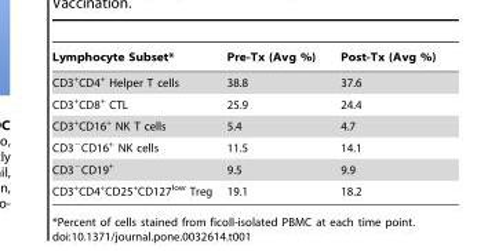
<table><thead><tr><td>Lymphocyte Subset*</td><td>Pre-Tx (Avg %)</td><td>Post-Tx (Avg %)</td></tr></thead><tbody><tr><td>CD3<sup>+</sup>CD4<sup>+</sup> Helper T cells</td><td>38.8</td><td>37.6</td></tr><tr><td>CD3<sup>+</sup>CD8<sup>+</sup> CTL</td><td>25.9</td><td>24.4</td></tr><tr><td>CD3<sup>+</sup>CD16<sup>+</sup> NK T cells</td><td>5.4</td><td>4.7</td></tr><tr><td>CD3<sup>−</sup>CD16<sup>+</sup> NK cells</td><td>11.5</td><td>14.1</td></tr><tr><td>CD3<sup>−</sup>CD19<sup>+</sup></td><td>9.5</td><td>9.9</td></tr><tr><td>CD3<sup>+</sup>CD4<sup>+</sup>CD25<sup>+</sup>CD127<sup>low</sup> Treg</td><td>19.1</td><td>18.2</td></tr></tbody></table>